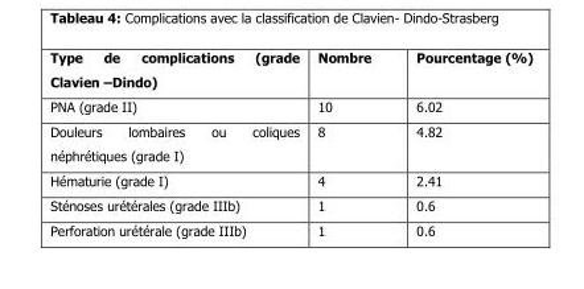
<table><thead><tr><td>Type de complications (grade Clavien –Dindo)</td><td>Nombre</td><td>Pourcentage (%)</td></tr></thead><tbody><tr><td>PNA (grade II)</td><td>10</td><td>6.02</td></tr><tr><td>Douleurs lombaires ou coliques néphrétiques (grade I)</td><td>8</td><td>4.82</td></tr><tr><td>Hématurie (grade I)</td><td>4</td><td>2.41</td></tr><tr><td>Sténoses urétérales (grade IIIb)</td><td>1</td><td>0.6</td></tr><tr><td>Perforation urétérale (grade IIIb)</td><td>1</td><td>0.6</td></tr></tbody></table>